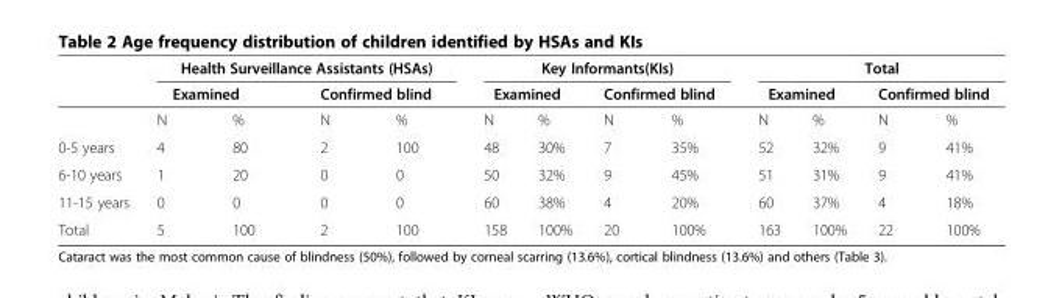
<table><thead><tr><td rowspan="3"></td><td colspan="4">Health Surveillance Assistants (HSAs)</td><td colspan="4">Key Informants(KIs)</td><td colspan="4">Total</td></tr><tr><td colspan="2">Examined</td><td colspan="2">Confirmed blind</td><td colspan="2">Examined</td><td colspan="2">Confirmed blind</td><td colspan="2">Examined</td><td colspan="2">Confirmed blind</td></tr><tr><td>N</td><td>%</td><td>N</td><td>%</td><td>N</td><td>%</td><td>N</td><td>%</td><td>N</td><td>%</td><td>N</td><td>%</td></tr></thead><tbody><tr><td>0-5 years</td><td>4</td><td>80</td><td>2</td><td>100</td><td>48</td><td>30%</td><td>7</td><td>35%</td><td>52</td><td>32%</td><td>9</td><td>41%</td></tr><tr><td>6-10 years</td><td>1</td><td>20</td><td>0</td><td>0</td><td>50</td><td>32%</td><td>9</td><td>45%</td><td>51</td><td>31%</td><td>9</td><td>41%</td></tr><tr><td>11-15 years</td><td>0</td><td>0</td><td>0</td><td>0</td><td>60</td><td>38%</td><td>4</td><td>20%</td><td>60</td><td>37%</td><td>4</td><td>18%</td></tr><tr><td>Total</td><td>5</td><td>100</td><td>2</td><td>100</td><td>158</td><td>100%</td><td>20</td><td>100%</td><td>163</td><td>100%</td><td>22</td><td>100%</td></tr></tbody></table>